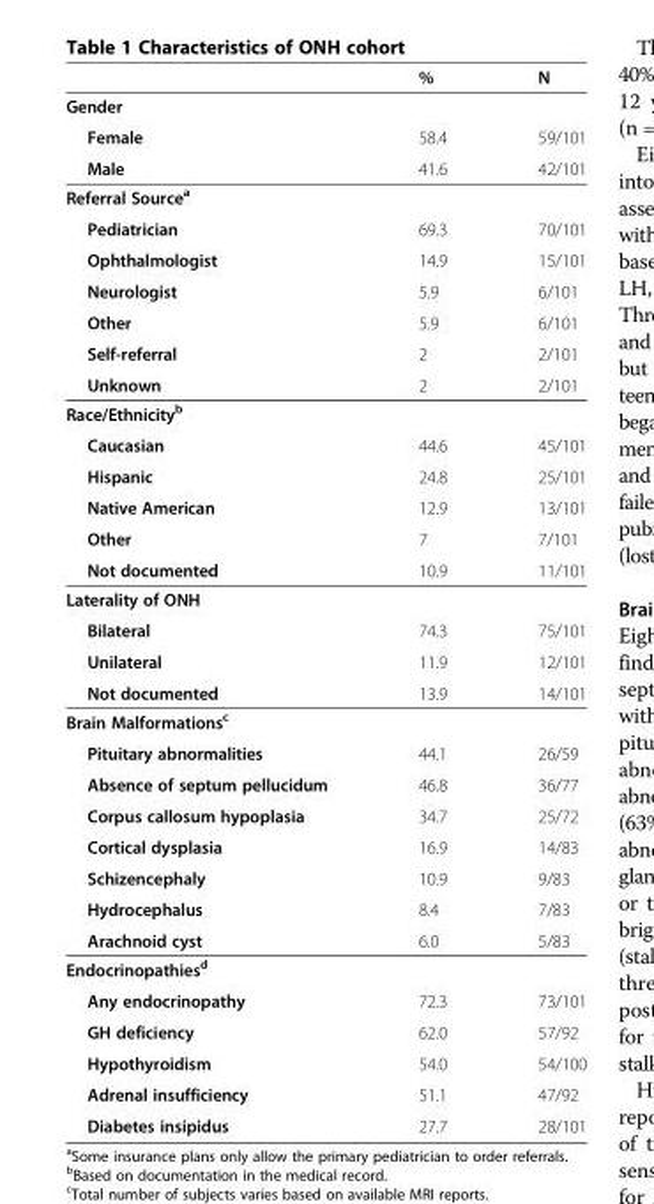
<table><thead><tr><td></td><td>%</td><td>N</td></tr></thead><tbody><tr><td colspan="3">Gender</td></tr><tr><td>Female</td><td>58.4</td><td>59/101</td></tr><tr><td>Male</td><td>41.6</td><td>42/101</td></tr><tr><td colspan="3">Referral Source<sup>a</sup></td></tr><tr><td>Pediatrician</td><td>69.3</td><td>70/101</td></tr><tr><td>Ophthalmologist</td><td>14.9</td><td>15/101</td></tr><tr><td>Neurologist</td><td>5.9</td><td>6/101</td></tr><tr><td>Other</td><td>5.9</td><td>6/101</td></tr><tr><td>Self-referral</td><td>2</td><td>2/101</td></tr><tr><td>Unknown</td><td>2</td><td>2/101</td></tr><tr><td colspan="3">Race/Ethnicity<sup>b</sup></td></tr><tr><td>Caucasian</td><td>44.6</td><td>45/101</td></tr><tr><td>Hispanic</td><td>24.8</td><td>25/101</td></tr><tr><td>Native American</td><td>12.9</td><td>13/101</td></tr><tr><td>Other</td><td>7</td><td>7/101</td></tr><tr><td>Not documented</td><td>10.9</td><td>11/101</td></tr><tr><td colspan="3">Laterality of ONH</td></tr><tr><td>Bilateral</td><td>74.3</td><td>75/101</td></tr><tr><td>Unilateral</td><td>11.9</td><td>12/101</td></tr><tr><td>Not documented</td><td>13.9</td><td>14/101</td></tr><tr><td colspan="3">Brain Malformations<sup>c</sup></td></tr><tr><td>Pituitary abnormalities</td><td>44.1</td><td>26/59</td></tr><tr><td>Absence of septum pellucidum</td><td>46.8</td><td>36/77</td></tr><tr><td>Corpus callosum hypoplasia</td><td>34.7</td><td>25/72</td></tr><tr><td>Cortical dysplasia</td><td>16.9</td><td>14/83</td></tr><tr><td>Schizencephaly</td><td>10.9</td><td>9/83</td></tr><tr><td>Hydrocephalus</td><td>8.4</td><td>7/83</td></tr><tr><td>Arachnoid cyst</td><td>6.0</td><td>5/83</td></tr><tr><td colspan="3">Endocrinopathies<sup>d</sup></td></tr><tr><td>Any endocrinopathy</td><td>72.3</td><td>73/101</td></tr><tr><td>GH deficiency</td><td>62.0</td><td>57/92</td></tr><tr><td>Hypothyroidism</td><td>54.0</td><td>54/100</td></tr><tr><td>Adrenal insufficiency</td><td>51.1</td><td>47/92</td></tr><tr><td>Diabetes insipidus</td><td>27.7</td><td>28/101</td></tr></tbody></table>